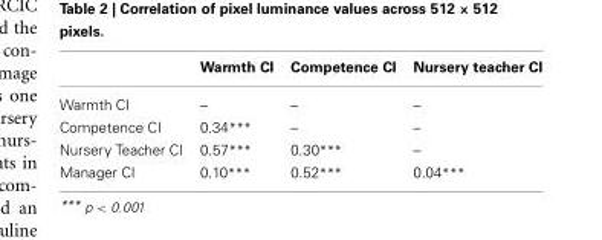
<table><thead><tr><td></td><td>Warmth CI</td><td>Competence CI</td><td>Nursery teacher CI</td></tr></thead><tbody><tr><td>Warmth CI</td><td>–</td><td>–</td><td>–</td></tr><tr><td>Competence CI</td><td>0.34***</td><td>–</td><td>–</td></tr><tr><td>Nursery Teacher CI</td><td>0.57***</td><td>0.30***</td><td>–</td></tr><tr><td>Manager CI</td><td>0.10***</td><td>0.52***</td><td>0.04***</td></tr></tbody></table>